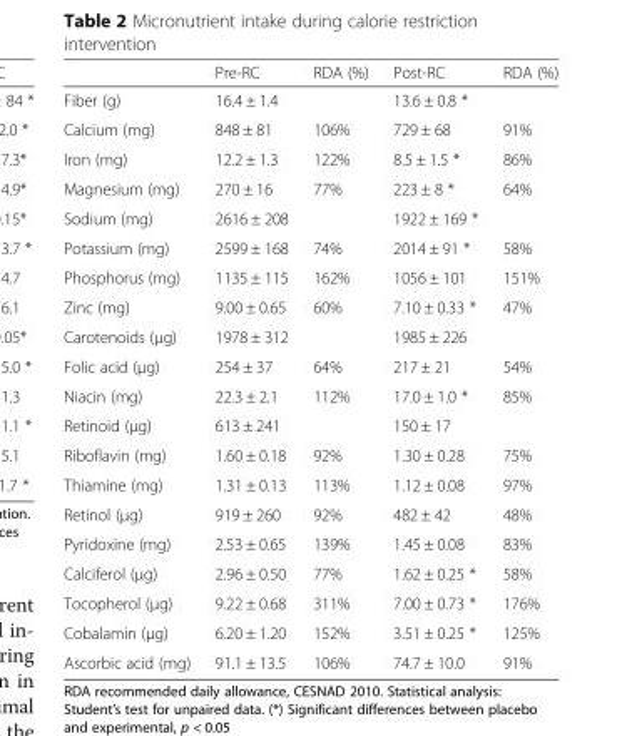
<table><thead><tr><td></td><td>Pre-RC</td><td>RDA (%)</td><td>Post-RC</td><td>RDA (%)</td></tr></thead><tbody><tr><td>Fiber (g)</td><td>16.4 ± 1.4</td><td></td><td>13.6 ± 0.8 *</td><td></td></tr><tr><td>Calcium (mg)</td><td>848 ± 81</td><td>106%</td><td>729 ± 68</td><td>91%</td></tr><tr><td>Iron (mg)</td><td>12.2 ± 1.3</td><td>122%</td><td>8.5 ± 1.5 *</td><td>86%</td></tr><tr><td>Magnesium (mg)</td><td>270 ± 16</td><td>77%</td><td>223 ± 8 *</td><td>64%</td></tr><tr><td>Sodium (mg)</td><td>2616 ± 208</td><td></td><td>1922 ± 169 *</td><td></td></tr><tr><td>Potassium (mg)</td><td>2599 ± 168</td><td>74%</td><td>2014 ± 91 *</td><td>58%</td></tr><tr><td>Phosphorus (mg)</td><td>1135 ± 115</td><td>162%</td><td>1056 ± 101</td><td>151%</td></tr><tr><td>Zinc (mg)</td><td>9.00 ± 0.65</td><td>60%</td><td>7.10 ± 0.33 *</td><td>47%</td></tr><tr><td>Carotenoids (μg)</td><td>1978 ± 312</td><td></td><td>1985 ± 226</td><td></td></tr><tr><td>Folic acid (μg)</td><td>254 ± 37</td><td>64%</td><td>217 ± 21</td><td>54%</td></tr><tr><td>Niacin (mg)</td><td>22.3 ± 2.1</td><td>112%</td><td>17.0 ± 1.0 *</td><td>85%</td></tr><tr><td>Retinoid (μg)</td><td>613 ± 241</td><td></td><td>150 ± 17</td><td></td></tr><tr><td>Riboflavin (mg)</td><td>1.60 ± 0.18</td><td>92%</td><td>1.30 ± 0.28</td><td>75%</td></tr><tr><td>Thiamine (mg)</td><td>1.31 ± 0.13</td><td>113%</td><td>1.12 ± 0.08</td><td>97%</td></tr><tr><td>Retinol (μg)</td><td>919 ± 260</td><td>92%</td><td>482 ± 42</td><td>48%</td></tr><tr><td>Pyridoxine (mg)</td><td>2.53 ± 0.65</td><td>139%</td><td>1.45 ± 0.08</td><td>83%</td></tr><tr><td>Calciferol (μg)</td><td>2.96 ± 0.50</td><td>77%</td><td>1.62 ± 0.25 *</td><td>58%</td></tr><tr><td>Tocopherol (μg)</td><td>9.22 ± 0.68</td><td>311%</td><td>7.00 ± 0.73 *</td><td>176%</td></tr><tr><td>Cobalamin (μg)</td><td>6.20 ± 1.20</td><td>152%</td><td>3.51 ± 0.25 *</td><td>125%</td></tr><tr><td>Ascorbic acid (mg)</td><td>91.1 ± 13.5</td><td>106%</td><td>74.7 ± 10.0</td><td>91%</td></tr></tbody></table>